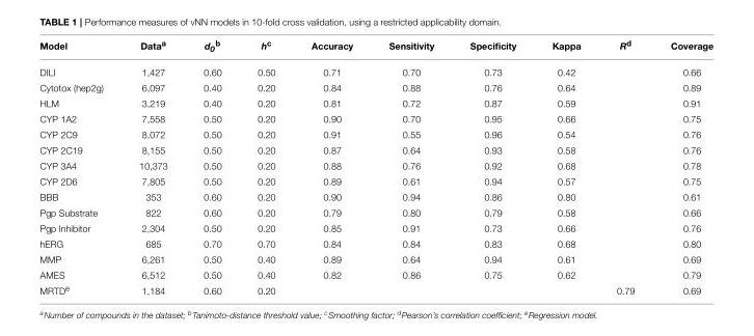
<table><thead><tr><td>Model</td><td>Data<sup>a</sup></td><td>d<sub>0</sub><sup>b</sup></td><td>h<sup>c</sup></td><td>Accuracy</td><td>Sensitivity</td><td>Specificity</td><td>Kappa</td><td>R<sup>d</sup></td><td>Coverage</td></tr></thead><tbody><tr><td>DILI</td><td>1,427</td><td>0.60</td><td>0.50</td><td>0.71</td><td>0.70</td><td>0.73</td><td>0.42</td><td></td><td>0.66</td></tr><tr><td>Cytotox (hep2g)</td><td>6,097</td><td>0.40</td><td>0.20</td><td>0.84</td><td>0.88</td><td>0.76</td><td>0.64</td><td></td><td>0.89</td></tr><tr><td>HLM</td><td>3,219</td><td>0.40</td><td>0.20</td><td>0.81</td><td>0.72</td><td>0.87</td><td>0.59</td><td></td><td>0.91</td></tr><tr><td>CYP 1A2</td><td>7,558</td><td>0.50</td><td>0.20</td><td>0.90</td><td>0.70</td><td>0.95</td><td>0.66</td><td></td><td>0.75</td></tr><tr><td>CYP 2C9</td><td>8,072</td><td>0.50</td><td>0.20</td><td>0.91</td><td>0.55</td><td>0.96</td><td>0.54</td><td></td><td>0.76</td></tr><tr><td>CYP 2C19</td><td>8,155</td><td>0.50</td><td>0.20</td><td>0.87</td><td>0.64</td><td>0.93</td><td>0.58</td><td></td><td>0.76</td></tr><tr><td>CYP 3A4</td><td>10,373</td><td>0.50</td><td>0.20</td><td>0.88</td><td>0.76</td><td>0.92</td><td>0.68</td><td></td><td>0.78</td></tr><tr><td>CYP 2D6</td><td>7,805</td><td>0.50</td><td>0.20</td><td>0.89</td><td>0.61</td><td>0.94</td><td>0.57</td><td></td><td>0.75</td></tr><tr><td>BBB</td><td>353</td><td>0.60</td><td>0.20</td><td>0.90</td><td>0.94</td><td>0.86</td><td>0.80</td><td></td><td>0.61</td></tr><tr><td>Pgp Substrate</td><td>822</td><td>0.60</td><td>0.20</td><td>0.79</td><td>0.80</td><td>0.79</td><td>0.58</td><td></td><td>0.66</td></tr><tr><td>Pgp Inhibitor</td><td>2,304</td><td>0.50</td><td>0.20</td><td>0.85</td><td>0.91</td><td>0.73</td><td>0.66</td><td></td><td>0.76</td></tr><tr><td>hERG</td><td>685</td><td>0.70</td><td>0.70</td><td>0.84</td><td>0.84</td><td>0.83</td><td>0.68</td><td></td><td>0.80</td></tr><tr><td>MMP</td><td>6,261</td><td>0.50</td><td>0.40</td><td>0.89</td><td>0.64</td><td>0.94</td><td>0.61</td><td></td><td>0.69</td></tr><tr><td>AMES</td><td>6,512</td><td>0.50</td><td>0.40</td><td>0.82</td><td>0.86</td><td>0.75</td><td>0.62</td><td></td><td>0.79</td></tr><tr><td>MRTD<sup>e</sup></td><td>1,184</td><td>0.60</td><td>0.20</td><td></td><td></td><td></td><td></td><td>0.79</td><td>0.69</td></tr></tbody></table>